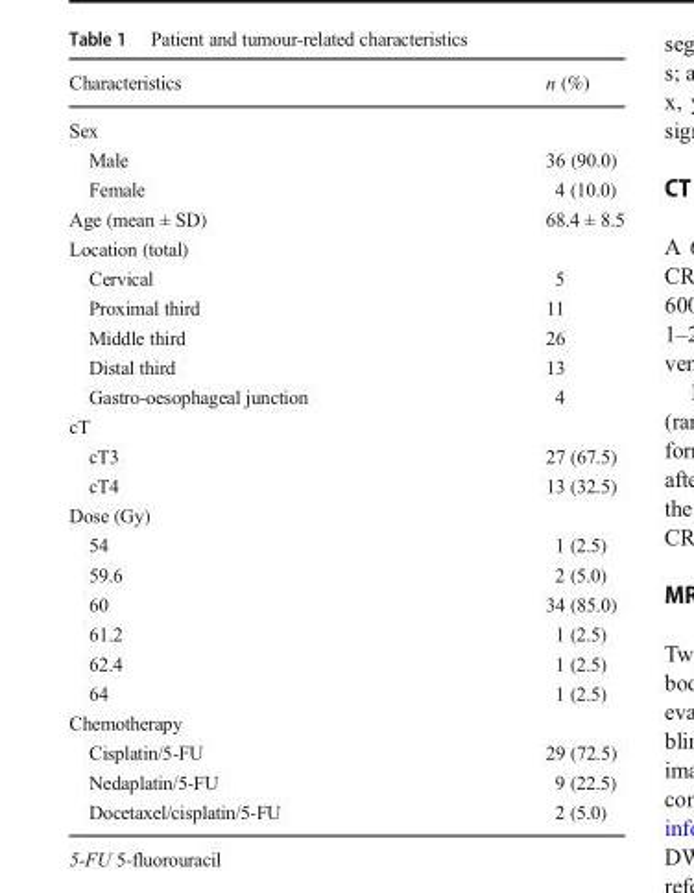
<table><thead><tr><td>Characteristics</td><td>n (%)</td></tr></thead><tbody><tr><td colspan="2">Sex</td></tr><tr><td>Male</td><td>36 (90.0)</td></tr><tr><td>Female</td><td>4 (10.0)</td></tr><tr><td>Age (mean ± SD)</td><td>68.4 ± 8.5</td></tr><tr><td colspan="2">Location (total)</td></tr><tr><td>Cervical</td><td>5</td></tr><tr><td>Proximal third</td><td>11</td></tr><tr><td>Middle third</td><td>26</td></tr><tr><td>Distal third</td><td>13</td></tr><tr><td>Gastro-oesophageal junction</td><td>4</td></tr><tr><td colspan="2">cT</td></tr><tr><td>cT3</td><td>27 (67.5)</td></tr><tr><td>cT4</td><td>13 (32.5)</td></tr><tr><td colspan="2">Dose (Gy)</td></tr><tr><td>54</td><td>1 (2.5)</td></tr><tr><td>59.6</td><td>2 (5.0)</td></tr><tr><td>60</td><td>34 (85.0)</td></tr><tr><td>61.2</td><td>1 (2.5)</td></tr><tr><td>62.4</td><td>1 (2.5)</td></tr><tr><td>64</td><td>1 (2.5)</td></tr><tr><td colspan="2">Chemotherapy</td></tr><tr><td>Cisplatin/5-FU</td><td>29 (72.5)</td></tr><tr><td>Nedaplatin/5-FU</td><td>9 (22.5)</td></tr><tr><td>Docetaxel/cisplatin/5-FU</td><td>2 (5.0)</td></tr></tbody></table>